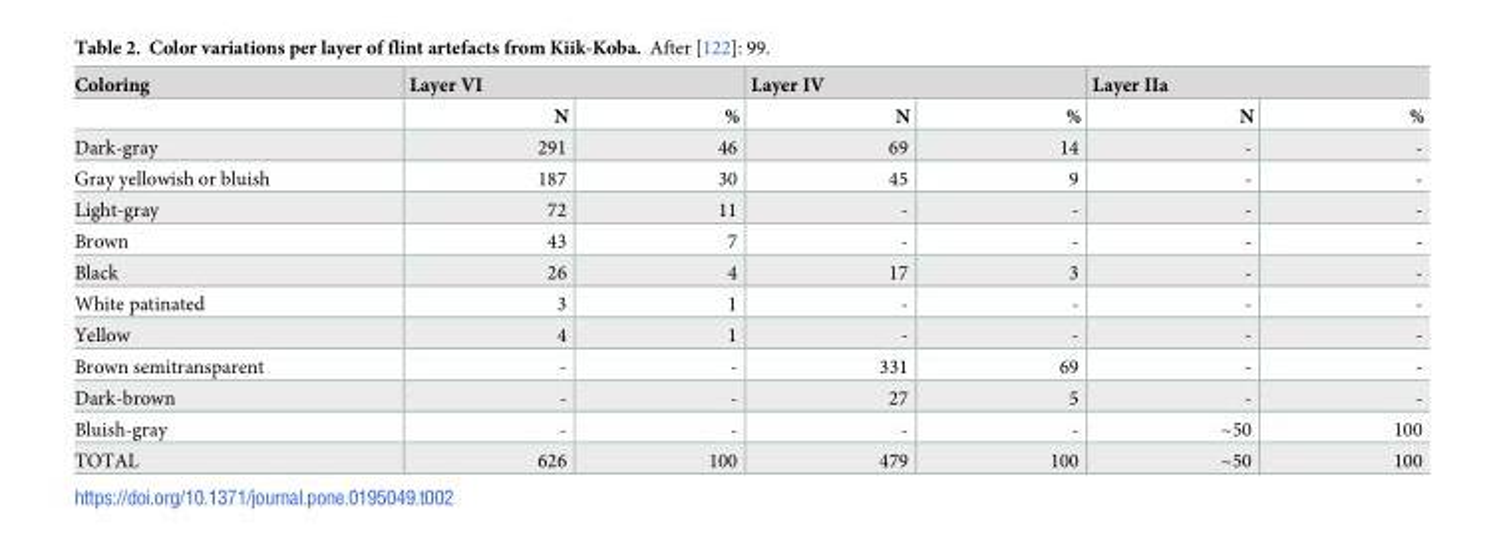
<table><thead><tr><td rowspan="2">Coloring</td><td colspan="2">Layer VI</td><td colspan="2">Layer IV</td><td colspan="2">Layer IIa</td></tr><tr><td>N</td><td>%</td><td>N</td><td>%</td><td>N</td><td>%</td></tr></thead><tbody><tr><td>Dark-gray</td><td>291</td><td>46</td><td>69</td><td>14</td><td>-</td><td>-</td></tr><tr><td>Gray yellowish or bluish</td><td>187</td><td>30</td><td>45</td><td>9</td><td>-</td><td>-</td></tr><tr><td>Light-gray</td><td>72</td><td>11</td><td>-</td><td>-</td><td>-</td><td>-</td></tr><tr><td>Brown</td><td>43</td><td>7</td><td>-</td><td>-</td><td>-</td><td>-</td></tr><tr><td>Black</td><td>26</td><td>4</td><td>17</td><td>3</td><td>-</td><td>-</td></tr><tr><td>White patinated</td><td>3</td><td>1</td><td>-</td><td>-</td><td>-</td><td>-</td></tr><tr><td>Yellow</td><td>4</td><td>1</td><td>-</td><td>-</td><td>-</td><td>-</td></tr><tr><td>Brown semitransparent</td><td>-</td><td>-</td><td>331</td><td>69</td><td>-</td><td>-</td></tr><tr><td>Dark-brown</td><td>-</td><td>-</td><td>27</td><td>5</td><td>-</td><td>-</td></tr><tr><td>Bluish-gray</td><td>-</td><td>-</td><td>-</td><td>-</td><td>~50</td><td>100</td></tr><tr><td>TOTAL</td><td>626</td><td>100</td><td>479</td><td>100</td><td>~50</td><td>100</td></tr></tbody></table>